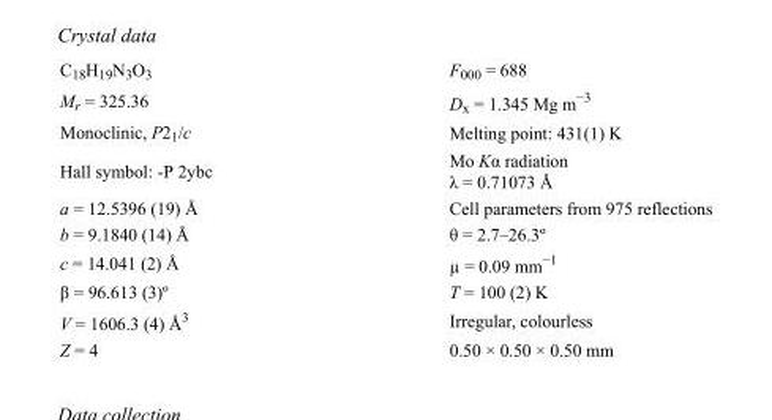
<table><tbody><tr><td>C<sub>18</sub>H<sub>19</sub>N<sub>3</sub>O<sub>3</sub></td><td>F000 = 688</td></tr><tr><td>M<sub>r</sub> = 325.36</td><td>D<sub>x</sub> = 1.345 Mg m<sup>−3</sup></td></tr><tr><td>Monoclinic, P2<sub>1</sub>/c</td><td>Melting point: 431(1) K</td></tr><tr><td>Hall symbol: -P 2ybc</td><td>Mo Kα radiation λ = 0.71073 Å</td></tr><tr><td>a = 12.5396 (19) Å</td><td>Cell parameters from 975 reflections</td></tr><tr><td>b = 9.1840 (14) Å</td><td>θ = 2.7–26.3º</td></tr><tr><td>c = 14.041 (2) Å</td><td>µ = 0.09 mm<sup>−1</sup></td></tr><tr><td>β = 96.613 (3)º</td><td>T = 100 (2) K</td></tr><tr><td>V = 1606.3 (4) Å<sup>3</sup></td><td>Irregular, colourless</td></tr><tr><td>Z = 4</td><td>0.50 × 0.50 × 0.50 mm</td></tr></tbody></table>